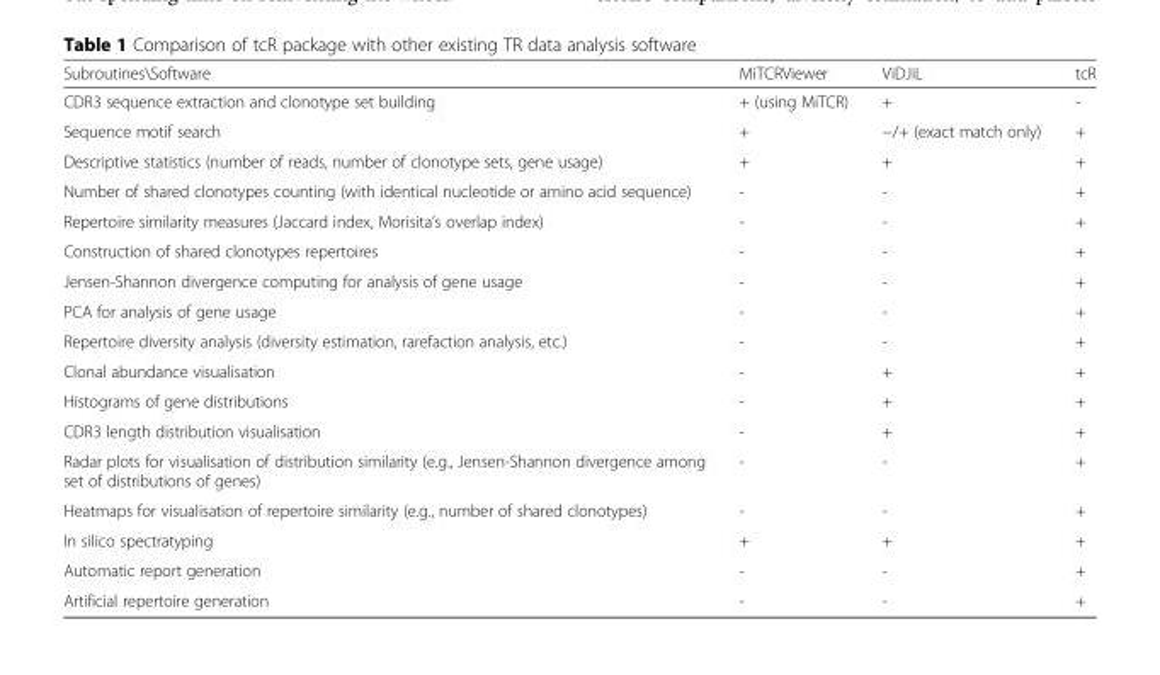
<table><thead><tr><td>Subroutines\Software</td><td>MiTCRViewer</td><td>ViDJiL</td><td>tcR</td></tr></thead><tbody><tr><td>CDR3 sequence extraction and clonotype set building</td><td>+ (using MiTCR)</td><td>+</td><td>-</td></tr><tr><td>Sequence motif search</td><td>+</td><td>−/+ (exact match only)</td><td>+</td></tr><tr><td>Descriptive statistics (number of reads, number of clonotype sets, gene usage)</td><td>+</td><td>+</td><td>+</td></tr><tr><td>Number of shared clonotypes counting (with identical nucleotide or amino acid sequence)</td><td>-</td><td>-</td><td>+</td></tr><tr><td>Repertoire similarity measures (Jaccard index, Morisita’s overlap index)</td><td>-</td><td>-</td><td>+</td></tr><tr><td>Construction of shared clonotypes repertoires</td><td>-</td><td>-</td><td>+</td></tr><tr><td>Jensen-Shannon divergence computing for analysis of gene usage</td><td>-</td><td>-</td><td>+</td></tr><tr><td>PCA for analysis of gene usage</td><td>-</td><td>-</td><td>+</td></tr><tr><td>Repertoire diversity analysis (diversity estimation, rarefaction analysis, etc.)</td><td>-</td><td>-</td><td>+</td></tr><tr><td>Clonal abundance visualisation</td><td>-</td><td>+</td><td>+</td></tr><tr><td>Histograms of gene distributions</td><td>-</td><td>+</td><td>+</td></tr><tr><td>CDR3 length distribution visualisation</td><td>-</td><td>+</td><td>+</td></tr><tr><td>Radar plots for visualisation of distribution similarity (e.g., Jensen-Shannon divergence among set of distributions of genes)</td><td>-</td><td>-</td><td>+</td></tr><tr><td>Heatmaps for visualisation of repertoire similarity (e.g., number of shared clonotypes)</td><td>-</td><td>-</td><td>+</td></tr><tr><td>In silico spectratyping</td><td>+</td><td>+</td><td>+</td></tr><tr><td>Automatic report generation</td><td>-</td><td>-</td><td>+</td></tr><tr><td>Artificial repertoire generation</td><td>-</td><td>-</td><td>+</td></tr></tbody></table>